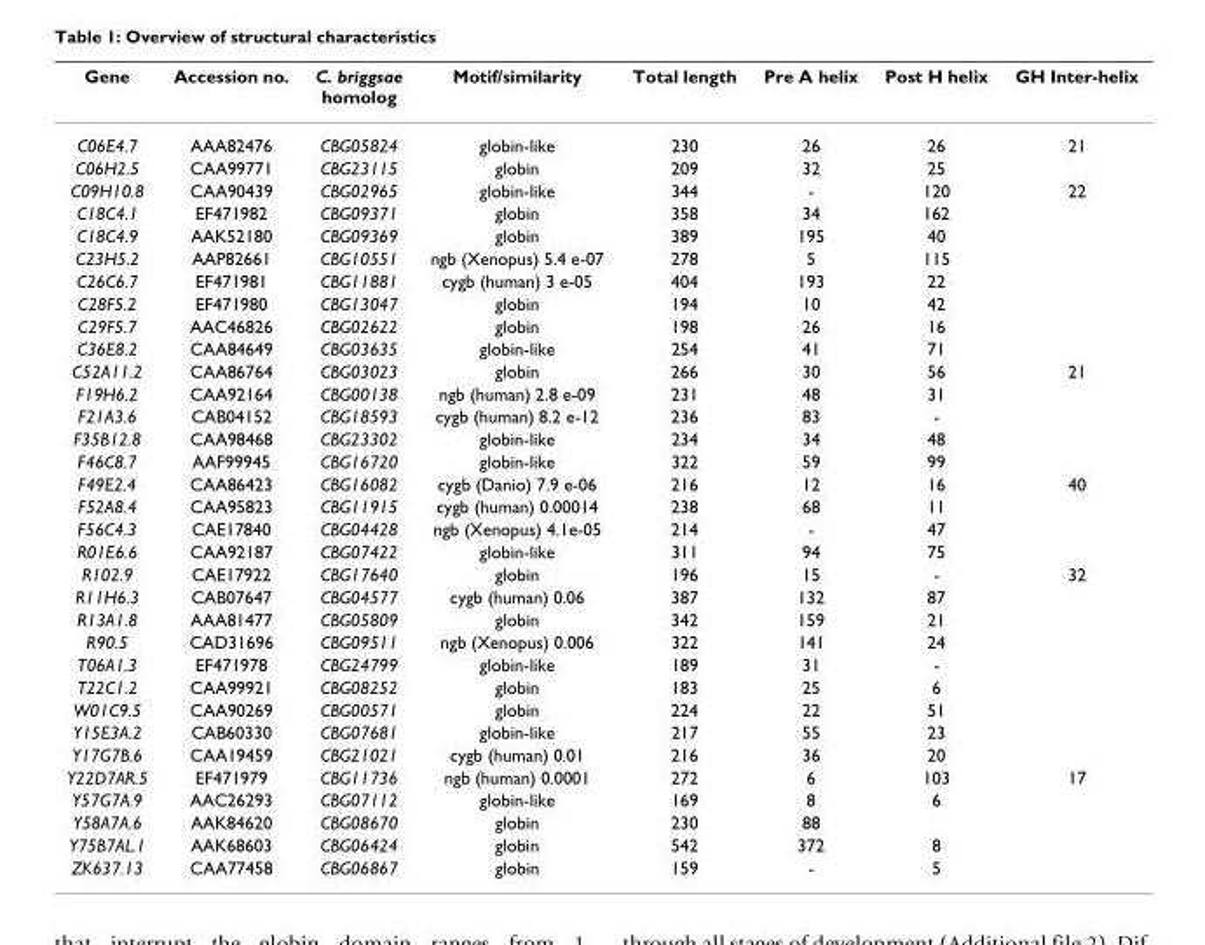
<table><thead><tr><td>Gene</td><td>Accession no.</td><td>C. briggsae homolog</td><td>Motif/similarity</td><td>Total length</td><td>Pre A helix</td><td>Post H helix</td><td>GH Inter-helix</td></tr></thead><tbody><tr><td>C06E4.7</td><td>AAA82476</td><td>CBG05824</td><td>globin-like</td><td>230</td><td>26</td><td>26</td><td>21</td></tr><tr><td>C06H2.5</td><td>CAA99771</td><td>CBG23115</td><td>globin</td><td>209</td><td>32</td><td>25</td><td></td></tr><tr><td>C09H10.8</td><td>CAA90439</td><td>CBG02965</td><td>globin-like</td><td>344</td><td>-</td><td>120</td><td>22</td></tr><tr><td>C18C4.1</td><td>EF471982</td><td>CBG09371</td><td>globin</td><td>358</td><td>34</td><td>162</td><td></td></tr><tr><td>C18C4.9</td><td>AAK52180</td><td>CBG09369</td><td>globin</td><td>389</td><td>195</td><td>40</td><td></td></tr><tr><td>C23H5.2</td><td>AAP82661</td><td>CBG10551</td><td>ngb (Xenopus) 5.4 e-07</td><td>278</td><td>5</td><td>115</td><td></td></tr><tr><td>C26C6.7</td><td>EF471981</td><td>CBG11881</td><td>cygb (human) 3 e-05</td><td>404</td><td>193</td><td>22</td><td></td></tr><tr><td>C28F5.2</td><td>EF471980</td><td>CBG13047</td><td>globin</td><td>194</td><td>10</td><td>42</td><td></td></tr><tr><td>C29F5.7</td><td>AAC46826</td><td>CBG02622</td><td>globin</td><td>198</td><td>26</td><td>16</td><td></td></tr><tr><td>C36E8.2</td><td>CAA84649</td><td>CBG03635</td><td>globin-like</td><td>254</td><td>41</td><td>71</td><td></td></tr><tr><td>C52A11.2</td><td>CAA86764</td><td>CBG03023</td><td>globin</td><td>266</td><td>30</td><td>56</td><td>21</td></tr><tr><td>F19H6.2</td><td>CAA92164</td><td>CBG00138</td><td>ngb (human) 2.8 e-09</td><td>231</td><td>48</td><td>31</td><td></td></tr><tr><td>F21A3.6</td><td>CAB04152</td><td>CBG18593</td><td>cygb (human) 8.2 e-12</td><td>236</td><td>83</td><td>-</td><td></td></tr><tr><td>F35B12.8</td><td>CAA98468</td><td>CBG23302</td><td>globin-like</td><td>234</td><td>34</td><td>48</td><td></td></tr><tr><td>F46C8.7</td><td>AAF99945</td><td>CBG16720</td><td>globin-like</td><td>322</td><td>59</td><td>99</td><td></td></tr><tr><td>F49E2.4</td><td>CAA86423</td><td>CBG16082</td><td>cygb (Danio) 7.9 e-06</td><td>216</td><td>12</td><td>16</td><td>40</td></tr><tr><td>F52A8.4</td><td>CAA95823</td><td>CBG11915</td><td>cygb (human) 0.00014</td><td>238</td><td>68</td><td>11</td><td></td></tr><tr><td>F56C4.3</td><td>CAE17840</td><td>CBG04428</td><td>ngb (Xenopus) 4.1e-05</td><td>214</td><td>-</td><td>47</td><td></td></tr><tr><td>R01E6.6</td><td>CAA92187</td><td>CBG07422</td><td>globin-like</td><td>311</td><td>94</td><td>75</td><td></td></tr><tr><td>R102.9</td><td>CAE17922</td><td>CBG17640</td><td>globin</td><td>196</td><td>15</td><td>-</td><td>32</td></tr><tr><td>R11H6.3</td><td>CAB07647</td><td>CBG04577</td><td>cygb (human) 0.06</td><td>387</td><td>132</td><td>87</td><td></td></tr><tr><td>R13A1.8</td><td>AAA81477</td><td>CBG05809</td><td>globin</td><td>342</td><td>159</td><td>21</td><td></td></tr><tr><td>R90.5</td><td>CAD31696</td><td>CBG09511</td><td>ngb (Xenopus) 0.006</td><td>322</td><td>141</td><td>24</td><td></td></tr><tr><td>T06A1.3</td><td>EF471978</td><td>CBG24799</td><td>globin-like</td><td>189</td><td>31</td><td>-</td><td></td></tr><tr><td>T22C1.2</td><td>CAA99921</td><td>CBG08252</td><td>globin</td><td>183</td><td>25</td><td>6</td><td></td></tr><tr><td>W01C9.5</td><td>CAA90269</td><td>CBG00571</td><td>globin</td><td>224</td><td>22</td><td>51</td><td></td></tr><tr><td>Y15E3A.2</td><td>CAB60330</td><td>CBG07681</td><td>globin-like</td><td>217</td><td>55</td><td>23</td><td></td></tr><tr><td>Y17G7B.6</td><td>CAA19459</td><td>CBG21021</td><td>cygb (human) 0.01</td><td>216</td><td>36</td><td>20</td><td></td></tr><tr><td>Y22D7AR.5</td><td>EF471979</td><td>CBG11736</td><td>ngb (human) 0.0001</td><td>272</td><td>6</td><td>103</td><td>17</td></tr><tr><td>Y57G7A.9</td><td>AAC26293</td><td>CBG07112</td><td>globin-like</td><td>169</td><td>8</td><td>6</td><td></td></tr><tr><td>Y58A7A.6</td><td>AAK84620</td><td>CBG08670</td><td>globin</td><td>230</td><td>88</td><td></td><td></td></tr><tr><td>Y75B7AL.1</td><td>AAK68603</td><td>CBG06424</td><td>globin</td><td>542</td><td>372</td><td>8</td><td></td></tr><tr><td>ZK637.13</td><td>CAA77458</td><td>CBG06867</td><td>globin</td><td>159</td><td>-</td><td>5</td><td></td></tr></tbody></table>